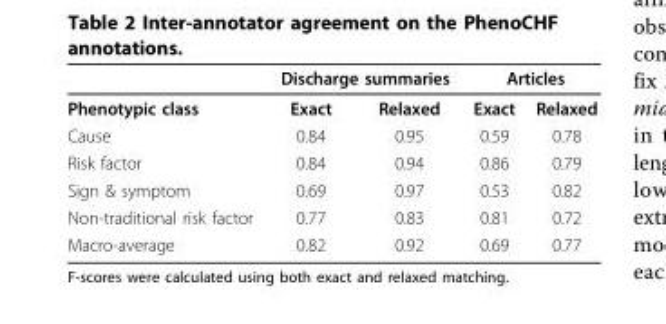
<table><thead><tr><td rowspan="2">Phenotypic class</td><td colspan="2">Discharge summaries</td><td colspan="2">Articles</td></tr><tr><td>Exact</td><td>Relaxed</td><td>Exact</td><td>Relaxed</td></tr></thead><tbody><tr><td>Cause</td><td>0.84</td><td>0.95</td><td>0.59</td><td>0.78</td></tr><tr><td>Risk factor</td><td>0.84</td><td>0.94</td><td>0.86</td><td>0.79</td></tr><tr><td>Sign &amp; symptom</td><td>0.69</td><td>0.97</td><td>0.53</td><td>0.82</td></tr><tr><td>Non-traditional risk factor</td><td>0.77</td><td>0.83</td><td>0.81</td><td>0.72</td></tr><tr><td>Macro-average</td><td>0.82</td><td>0.92</td><td>0.69</td><td>0.77</td></tr></tbody></table>